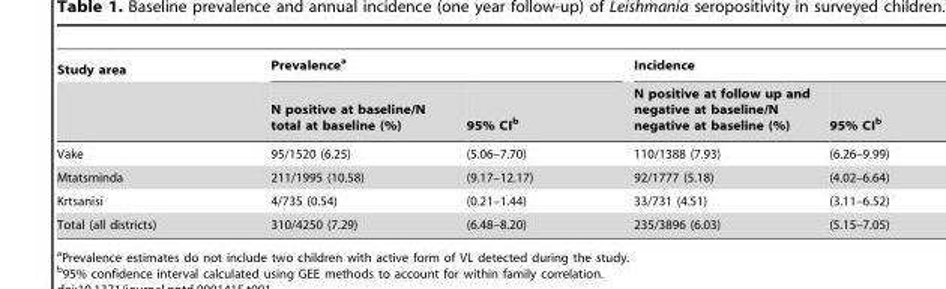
<table><thead><tr><td rowspan="2">Study area</td><td colspan="2">Prevalence<sup>a</sup></td><td colspan="2">Incidence</td></tr><tr><td>N positive at baseline/N total at baseline (%)</td><td>95% CI<sup>b</sup></td><td>N positive at follow up and negative at baseline/N negative at baseline (%)</td><td>95% CI<sup>b</sup></td></tr></thead><tbody><tr><td>Vake</td><td>95/1520 (6.25)</td><td>(5.06–7.70)</td><td>110/1388 (7.93)</td><td>(6.26–9.99)</td></tr><tr><td>Mtatsminda</td><td>211/1995 (10.58)</td><td>(9.17–12.17)</td><td>92/1777 (5.18)</td><td>(4.02–6.64)</td></tr><tr><td>Krtsanisi</td><td>4/735 (0.54)</td><td>(0.21–1.44)</td><td>33/731 (4.51)</td><td>(3.11–6.52)</td></tr><tr><td>Total (all districts)</td><td>310/4250 (7.29)</td><td>(6.48–8.20)</td><td>235/3896 (6.03)</td><td>(5.15–7.05)</td></tr></tbody></table>